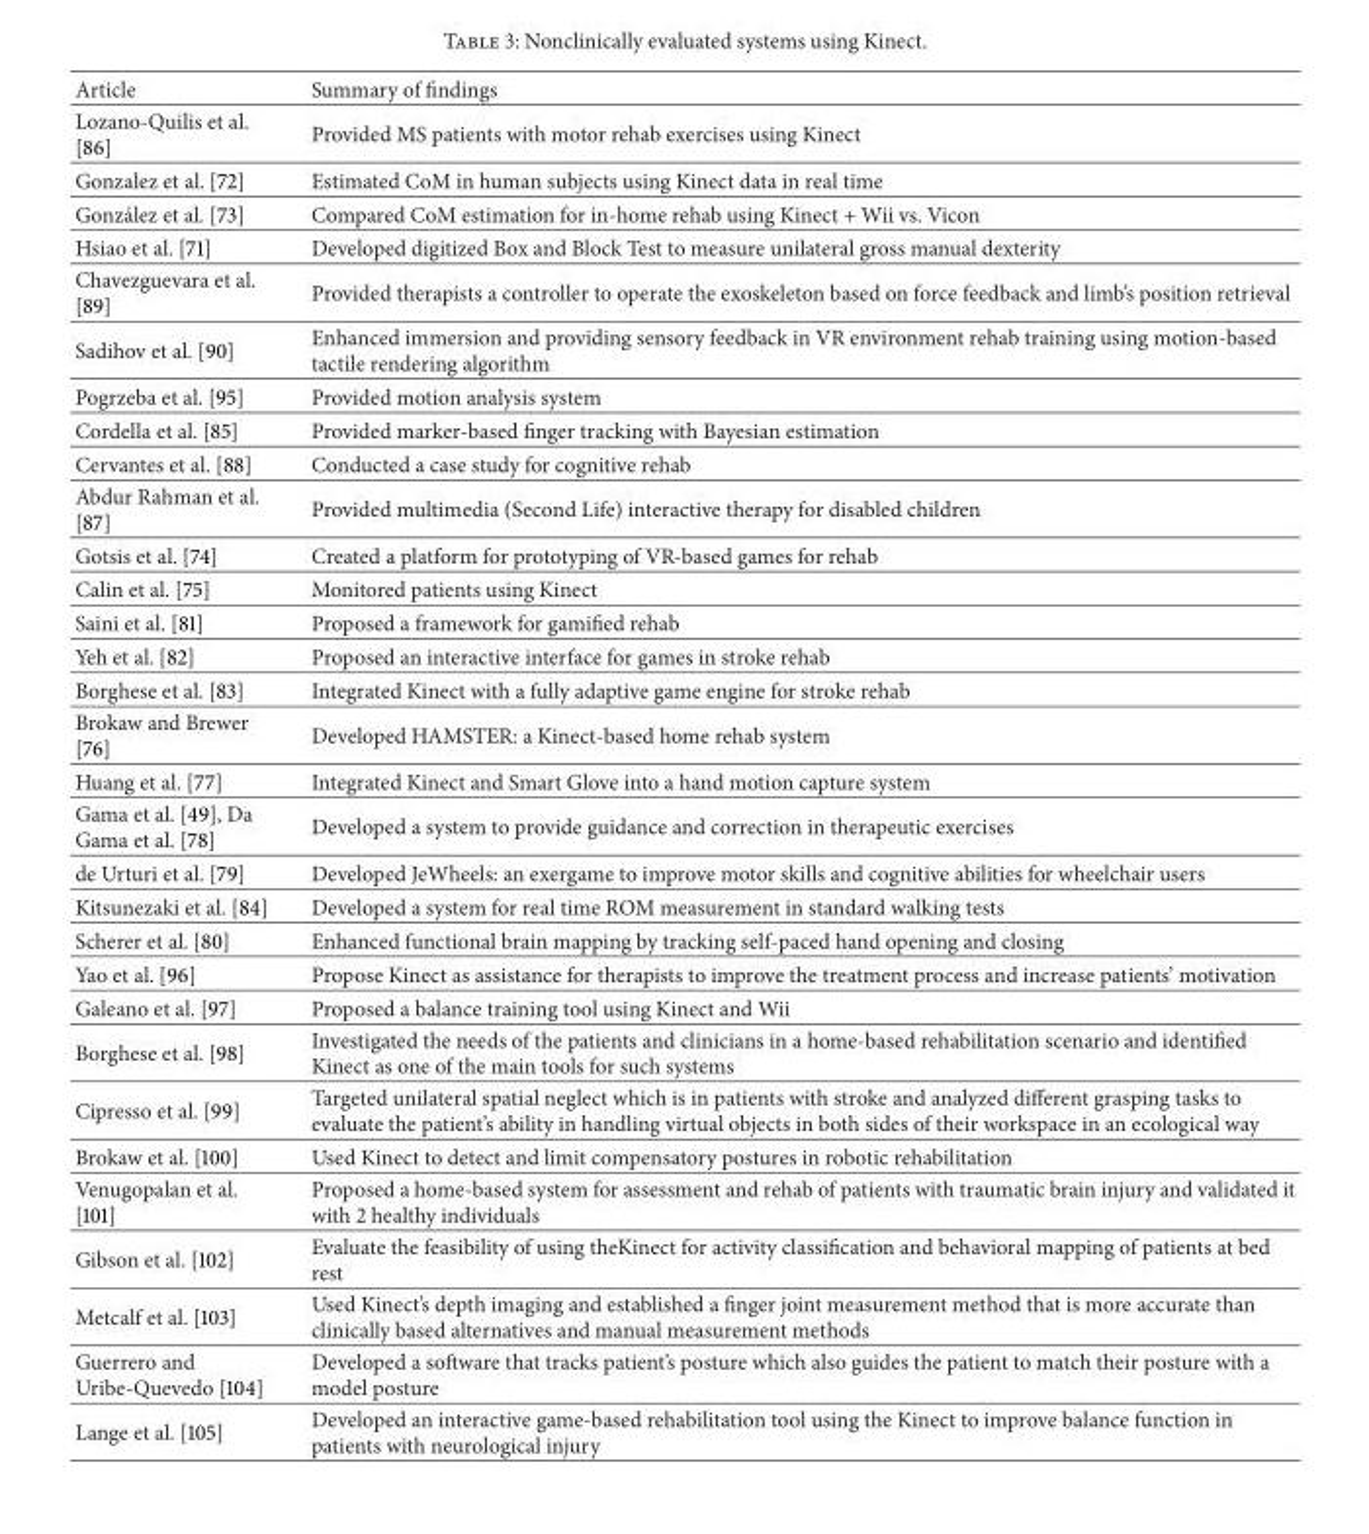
<table><thead><tr><td>Article</td><td>Summary of findings</td></tr></thead><tbody><tr><td>Lozano-Quilis et al. [86]</td><td>Provided MS patients with motor rehab exercises using Kinect</td></tr><tr><td>Gonzalez et al. [72]</td><td>Estimated CoM in human subjects using Kinect data in real time</td></tr><tr><td>Gonz´alez et al. [73]</td><td>Compared CoM estimation for in-home rehab using Kinect + Wii vs. Vicon</td></tr><tr><td>Hsiao et al. [71]</td><td>Developed digitized Box and Block Test to measure unilateral gross manual dexterity</td></tr><tr><td>Chavezguevara et al. [89]</td><td>Provided therapists a controller to operate the exoskeleton based on force feedback and limb’s position retrieval</td></tr><tr><td>Sadihov et al. [90]</td><td>Enhanced immersion and providing sensory feedback in VR environment rehab training using motion-based tactile rendering algorithm</td></tr><tr><td>Pogrzeba et al. [95]</td><td>Provided motion analysis system</td></tr><tr><td>Cordella et al. [85]</td><td>Provided marker-based finger tracking with Bayesian estimation</td></tr><tr><td>Cervantes et al. [88]</td><td>Conducted a case study for cognitive rehab</td></tr><tr><td>Abdur Rahman et al. [87]</td><td>Provided multimedia (Second Life) interactive therapy for disabled children</td></tr><tr><td>Gotsis et al. [74]</td><td>Created a platform for prototyping of VR-based games for rehab</td></tr><tr><td>Calin et al. [75]</td><td>Monitored patients using Kinect</td></tr><tr><td>Saini et al. [81]</td><td>Proposed a framework for gamified rehab</td></tr><tr><td>Yeh et al. [82]</td><td>Proposed an interactive interface for games in stroke rehab</td></tr><tr><td>Borghese et al. [83]</td><td>Integrated Kinect with a fully adaptive game engine for stroke rehab</td></tr><tr><td>Brokaw and Brewer [76]</td><td>Developed HAMSTER: a Kinect-based home rehab system</td></tr><tr><td>Huang et al. [77]</td><td>Integrated Kinect and Smart Glove into a hand motion capture system</td></tr><tr><td>Gama et al. [49], Da Gama et al. [78]</td><td>Developed a system to provide guidance and correction in therapeutic exercises</td></tr><tr><td>de Urturi et al. [79]</td><td>Developed JeWheels: an exergame to improve motor skills and cognitive abilities for wheelchair users</td></tr><tr><td>Kitsunezaki et al. [84]</td><td>Developed a system for real time ROM measurement in standard walking tests</td></tr><tr><td>Scherer et al. [80]</td><td>Enhanced functional brain mapping by tracking self-paced hand opening and closing</td></tr><tr><td>Yao et al. [96]</td><td>Propose Kinect as assistance for therapists to improve the treatment process and increase patients’ motivation</td></tr><tr><td>Galeano et al. [97]</td><td>Proposed a balance training tool using Kinect and Wii</td></tr><tr><td>Borghese et al. [98]</td><td>Investigated the needs of the patients and clinicians in a home-based rehabilitation scenario and identified Kinect as one of the main tools for such systems</td></tr><tr><td>Cipresso et al. [99]</td><td>Targeted unilateral spatial neglect which is in patients with stroke and analyzed different grasping tasks to evaluate the patient’s ability in handling virtual objects in both sides of their workspace in an ecological way</td></tr><tr><td>Brokaw et al. [100]</td><td>Used Kinect to detect and limit compensatory postures in robotic rehabilitation</td></tr><tr><td>Venugopalan et al. [101]</td><td>Proposed a home-based system for assessment and rehab of patients with traumatic brain injury and validated it with 2 healthy individuals</td></tr><tr><td>Gibson et al. [102]</td><td>Evaluate the feasibility of using theKinect for activity classification and behavioral mapping of patients at bed rest</td></tr><tr><td>Metcalf et al. [103]</td><td>Used Kinect’s depth imaging and established a finger joint measurement method that is more accurate than clinically based alternatives and manual measurement methods</td></tr><tr><td>Guerrero and Uribe-Quevedo [104]</td><td>Developed a software that tracks patient’s posture which also guides the patient to match their posture with a model posture</td></tr><tr><td>Lange et al. [105]</td><td>Developed an interactive game-based rehabilitation tool using the Kinect to improve balance function in patients with neurological injury</td></tr></tbody></table>